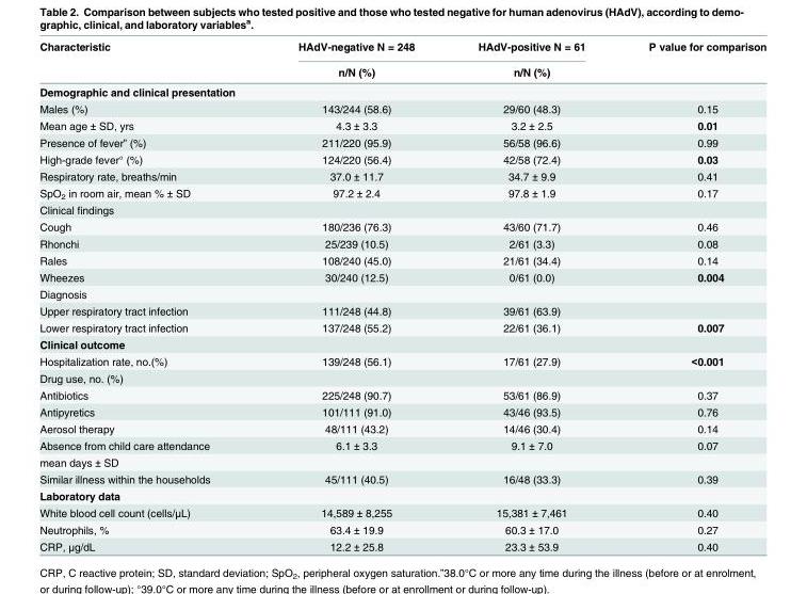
<table><thead><tr><td rowspan="2">Characteristic</td><td rowspan="2">HAdV-negative N = 248 n/N (%)</td><td rowspan="2">HAdV-positive N = 61 n/N (%)</td><td rowspan="2">P value for comparison</td></tr><tr></tr></thead><tbody><tr><td colspan="4">Demographic and clinical presentation</td></tr><tr><td>Males (%)</td><td>143/244 (58.6)</td><td>29/60 (48.3)</td><td>0.15</td></tr><tr><td>Mean age ± SD, yrs</td><td>4.3 ± 3.3</td><td>3.2 ± 2.5</td><td>0.01</td></tr><tr><td>Presence of fever” (%)</td><td>211/220 (95.9)</td><td>56/58 (96.6)</td><td>0.99</td></tr><tr><td>High-grade fever° (%)</td><td>124/220 (56.4)</td><td>42/58 (72.4)</td><td>0.03</td></tr><tr><td>Respiratory rate, breaths/min</td><td>37.0 ± 11.7</td><td>34.7 ± 9.9</td><td>0.41</td></tr><tr><td>SpO<sub>2</sub> in room air, mean % ± SD</td><td>97.2 ± 2.4</td><td>97.8 ± 1.9</td><td>0.17</td></tr><tr><td colspan="4">Clinical findings</td></tr><tr><td>Cough</td><td>180/236 (76.3)</td><td>43/60 (71.7)</td><td>0.46</td></tr><tr><td>Rhonchi</td><td>25/239 (10.5)</td><td>2/61 (3.3)</td><td>0.08</td></tr><tr><td>Rales</td><td>108/240 (45.0)</td><td>21/61 (34.4)</td><td>0.14</td></tr><tr><td>Wheezes</td><td>30/240 (12.5)</td><td>0/61 (0.0)</td><td>0.004</td></tr><tr><td colspan="4">Diagnosis</td></tr><tr><td>Upper respiratory tract infection</td><td>111/248 (44.8)</td><td>39/61 (63.9)</td><td></td></tr><tr><td>Lower respiratory tract infection</td><td>137/248 (55.2)</td><td>22/61 (36.1)</td><td>0.007</td></tr><tr><td colspan="4">Clinical outcome</td></tr><tr><td>Hospitalization rate, no.(%)</td><td>139/248 (56.1)</td><td>17/61 (27.9)</td><td>&lt;0.001</td></tr><tr><td colspan="4">Drug use, no. (%)</td></tr><tr><td>Antibiotics</td><td>225/248 (90.7)</td><td>53/61 (86.9)</td><td>0.37</td></tr><tr><td>Antipyretics</td><td>101/111 (91.0)</td><td>43/46 (93.5)</td><td>0.76</td></tr><tr><td>Aerosol therapy</td><td>48/111 (43.2)</td><td>14/46 (30.4)</td><td>0.14</td></tr><tr><td>Absence from child care attendance</td><td>6.1 ± 3.3</td><td>9.1 ± 7.0</td><td>0.07</td></tr><tr><td colspan="4">mean days ± SD</td></tr><tr><td>Similar illness within the households</td><td>45/111 (40.5)</td><td>16/48 (33.3)</td><td>0.39</td></tr><tr><td colspan="4">Laboratory data</td></tr><tr><td>White blood cell count (cells/μL)</td><td>14,589 ± 8,255</td><td>15,381 ± 7,461</td><td>0.40</td></tr><tr><td>Neutrophils, %</td><td>63.4 ± 19.9</td><td>60.3 ± 17.0</td><td>0.27</td></tr><tr><td>CRP, μg/dL</td><td>12.2 ± 25.8</td><td>23.3 ± 53.9</td><td>0.40</td></tr></tbody></table>